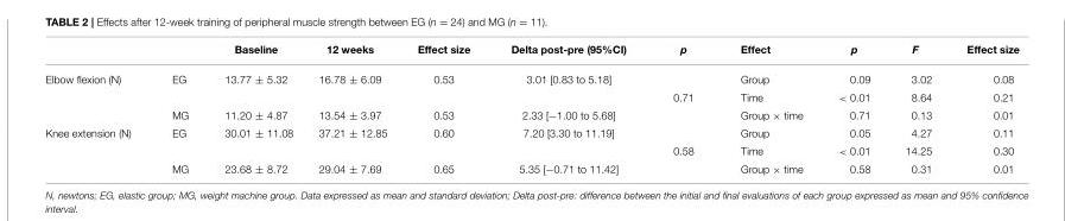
<table><thead><tr><td></td><td></td><td>Baseline</td><td>12 weeks</td><td>Effect size</td><td>Delta post-pre (95%CI)</td><td>p</td><td>Effect</td><td>p</td><td>F</td><td>Effect size</td></tr></thead><tbody><tr><td rowspan="3">Elbow flexion (N)</td><td>EG</td><td>13.77 ± 5.32</td><td>16.78 ± 6.09</td><td>0.53</td><td>3.01 [0.83 to 5.18]</td><td></td><td>Group</td><td>0.09</td><td>3.02</td><td>0.08</td></tr><tr><td></td><td></td><td></td><td></td><td></td><td>0.71</td><td>Time</td><td>&lt; 0.01</td><td>8.64</td><td>0.21</td></tr><tr><td>MG</td><td>11.20 ± 4.87</td><td>13.54 ± 3.97</td><td>0.53</td><td>2.33 [−1.00 to 5.68]</td><td></td><td>Group × time</td><td>0.71</td><td>0.13</td><td>0.01</td></tr><tr><td rowspan="3">Knee extension (N)</td><td>EG</td><td>30.01 ± 11.08</td><td>37.21 ± 12.85</td><td>0.60</td><td>7.20 [3.30 to 11.19]</td><td></td><td>Group</td><td>0.05</td><td>4.27</td><td>0.11</td></tr><tr><td></td><td></td><td></td><td></td><td></td><td>0.58</td><td>Time</td><td>&lt; 0.01</td><td>14.25</td><td>0.30</td></tr><tr><td>MG</td><td>23.68 ± 8.72</td><td>29.04 ± 7.69</td><td>0.65</td><td>5.35 [−0.71 to 11.42]</td><td></td><td>Group × time</td><td>0.58</td><td>0.31</td><td>0.01</td></tr></tbody></table>